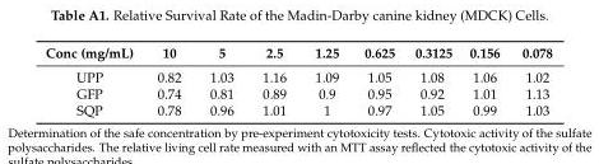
<table><thead><tr><td>Conc (mg/mL)</td><td>10</td><td>5</td><td>2.5</td><td>1.25</td><td>0.625</td><td>0.3125</td><td>0.156</td><td>0.078</td></tr></thead><tbody><tr><td>UPP</td><td>0.82</td><td>1.03</td><td>1.16</td><td>1.09</td><td>1.05</td><td>1.08</td><td>1.06</td><td>1.02</td></tr><tr><td>GFP</td><td>0.74</td><td>0.81</td><td>0.89</td><td>0.9</td><td>0.95</td><td>0.92</td><td>1.01</td><td>1.13</td></tr><tr><td>SQP</td><td>0.78</td><td>0.96</td><td>1.01</td><td>1</td><td>0.97</td><td>1.05</td><td>0.99</td><td>1.03</td></tr></tbody></table>